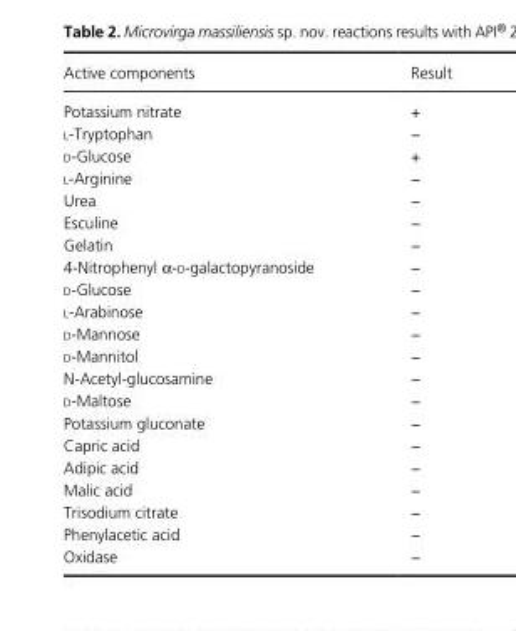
<table><thead><tr><td>Active components</td><td>Result</td></tr></thead><tbody><tr><td>Potassium nitrate</td><td>+</td></tr><tr><td>l- Tryptophan</td><td>−</td></tr><tr><td>d- Glucose</td><td>+</td></tr><tr><td>l- Arginine</td><td>−</td></tr><tr><td>Urea</td><td>−</td></tr><tr><td>Esculine</td><td>−</td></tr><tr><td>Gelatin</td><td>−</td></tr><tr><td>4- Nitrophenyl α- d- galactopyranoside</td><td>−</td></tr><tr><td>d- Glucose</td><td>−</td></tr><tr><td>l- Arabinose</td><td>−</td></tr><tr><td>d- Mannose</td><td>−</td></tr><tr><td>d- Mannitol</td><td>−</td></tr><tr><td>N- Acetyl- glucosamine</td><td>−</td></tr><tr><td>d- Maltose</td><td>−</td></tr><tr><td>Potassium gluconate</td><td>−</td></tr><tr><td>Capric acid</td><td>−</td></tr><tr><td>Adipic acid</td><td>−</td></tr><tr><td>Malic acid</td><td>−</td></tr><tr><td>Trisodium citrate</td><td>−</td></tr><tr><td>Phenylacetic acid</td><td>−</td></tr><tr><td>Oxidase</td><td>−</td></tr></tbody></table>